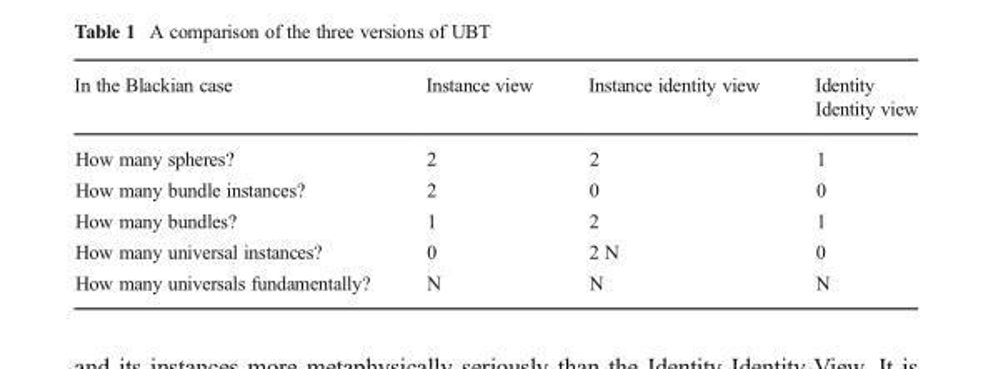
<table><thead><tr><td>In the Blackian case</td><td>Instance view</td><td>Instance identity view</td><td>Identity Identity view</td></tr></thead><tbody><tr><td>How many spheres?</td><td>2</td><td>2</td><td>1</td></tr><tr><td>How many bundle instances?</td><td>2</td><td>0</td><td>0</td></tr><tr><td>How many bundles?</td><td>1</td><td>2</td><td>1</td></tr><tr><td>How many universal instances?</td><td>0</td><td>2 N</td><td>0</td></tr><tr><td>How many universals fundamentally?</td><td>N</td><td>N</td><td>N</td></tr></tbody></table>